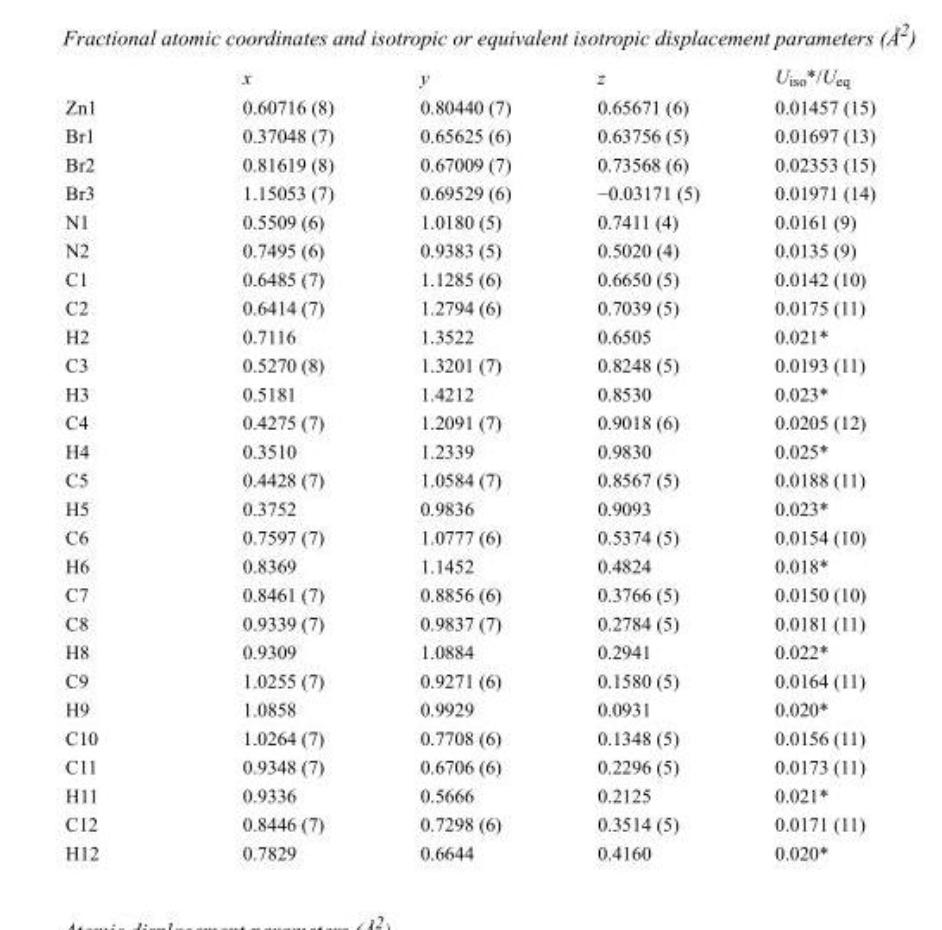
<table><thead><tr><td></td><td>x</td><td>y</td><td>z</td><td>U<sub>iso</sub>*/U<sub>eq</sub></td></tr></thead><tbody><tr><td>Zn1</td><td>0.60716 (8)</td><td>0.80440 (7)</td><td>0.65671 (6)</td><td>0.01457 (15)</td></tr><tr><td>Br1</td><td>0.37048 (7)</td><td>0.65625 (6)</td><td>0.63756 (5)</td><td>0.01697 (13)</td></tr><tr><td>Br2</td><td>0.81619 (8)</td><td>0.67009 (7)</td><td>0.73568 (6)</td><td>0.02353 (15)</td></tr><tr><td>Br3</td><td>1.15053 (7)</td><td>0.69529 (6)</td><td>−0.03171 (5)</td><td>0.01971 (14)</td></tr><tr><td>N1</td><td>0.5509 (6)</td><td>1.0180 (5)</td><td>0.7411 (4)</td><td>0.0161 (9)</td></tr><tr><td>N2</td><td>0.7495 (6)</td><td>0.9383 (5)</td><td>0.5020 (4)</td><td>0.0135 (9)</td></tr><tr><td>C1</td><td>0.6485 (7)</td><td>1.1285 (6)</td><td>0.6650 (5)</td><td>0.0142 (10)</td></tr><tr><td>C2</td><td>0.6414 (7)</td><td>1.2794 (6)</td><td>0.7039 (5)</td><td>0.0175 (11)</td></tr><tr><td>H2</td><td>0.7116</td><td>1.3522</td><td>0.6505</td><td>0.021*</td></tr><tr><td>C3</td><td>0.5270 (8)</td><td>1.3201 (7)</td><td>0.8248 (5)</td><td>0.0193 (11)</td></tr><tr><td>H3</td><td>0.5181</td><td>1.4212</td><td>0.8530</td><td>0.023*</td></tr><tr><td>C4</td><td>0.4275 (7)</td><td>1.2091 (7)</td><td>0.9018 (6)</td><td>0.0205 (12)</td></tr><tr><td>H4</td><td>0.3510</td><td>1.2339</td><td>0.9830</td><td>0.025*</td></tr><tr><td>C5</td><td>0.4428 (7)</td><td>1.0584 (7)</td><td>0.8567 (5)</td><td>0.0188 (11)</td></tr><tr><td>H5</td><td>0.3752</td><td>0.9836</td><td>0.9093</td><td>0.023*</td></tr><tr><td>C6</td><td>0.7597 (7)</td><td>1.0777 (6)</td><td>0.5374 (5)</td><td>0.0154 (10)</td></tr><tr><td>H6</td><td>0.8369</td><td>1.1452</td><td>0.4824</td><td>0.018*</td></tr><tr><td>C7</td><td>0.8461 (7)</td><td>0.8856 (6)</td><td>0.3766 (5)</td><td>0.0150 (10)</td></tr><tr><td>C8</td><td>0.9339 (7)</td><td>0.9837 (7)</td><td>0.2784 (5)</td><td>0.0181 (11)</td></tr><tr><td>H8</td><td>0.9309</td><td>1.0884</td><td>0.2941</td><td>0.022*</td></tr><tr><td>C9</td><td>1.0255 (7)</td><td>0.9271 (6)</td><td>0.1580 (5)</td><td>0.0164 (11)</td></tr><tr><td>H9</td><td>1.0858</td><td>0.9929</td><td>0.0931</td><td>0.020*</td></tr><tr><td>C10</td><td>1.0264 (7)</td><td>0.7708 (6)</td><td>0.1348 (5)</td><td>0.0156 (11)</td></tr><tr><td>C11</td><td>0.9348 (7)</td><td>0.6706 (6)</td><td>0.2296 (5)</td><td>0.0173 (11)</td></tr><tr><td>H11</td><td>0.9336</td><td>0.5666</td><td>0.2125</td><td>0.021*</td></tr><tr><td>C12</td><td>0.8446 (7)</td><td>0.7298 (6)</td><td>0.3514 (5)</td><td>0.0171 (11)</td></tr><tr><td>H12</td><td>0.7829</td><td>0.6644</td><td>0.4160</td><td>0.020*</td></tr></tbody></table>